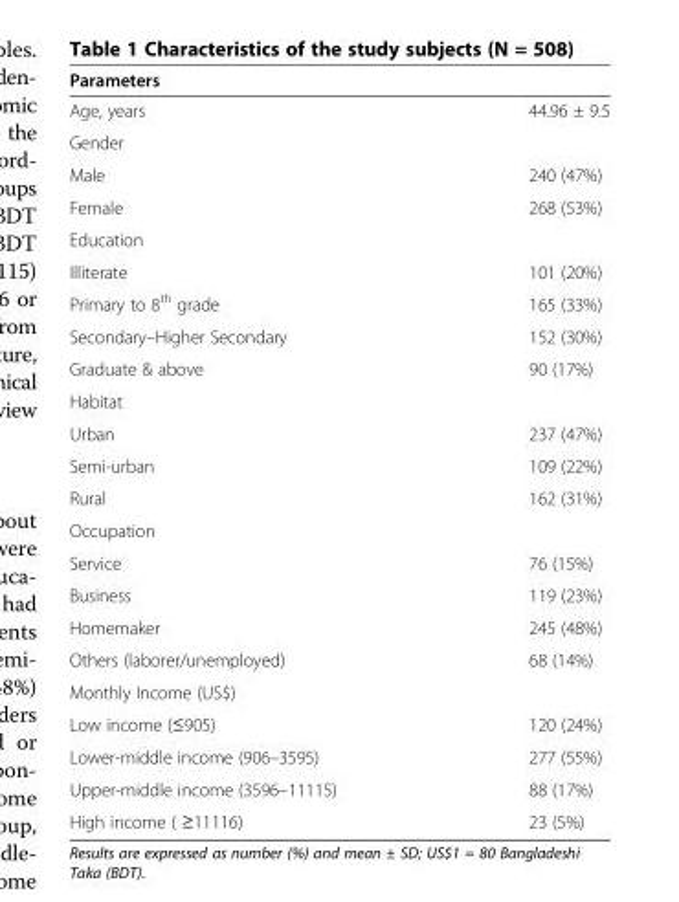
<table><thead><tr><td>Parameters</td><td></td></tr></thead><tbody><tr><td>Age, years</td><td>44.96 ± 9.5</td></tr><tr><td colspan="2">Gender</td></tr><tr><td>Male</td><td>240 (47%)</td></tr><tr><td>Female</td><td>268 (53%)</td></tr><tr><td colspan="2">Education</td></tr><tr><td>Illiterate</td><td>101 (20%)</td></tr><tr><td>Primary to 8<sup>th</sup> grade</td><td>165 (33%)</td></tr><tr><td>Secondary–Higher Secondary</td><td>152 (30%)</td></tr><tr><td>Graduate &amp; above</td><td>90 (17%)</td></tr><tr><td colspan="2">Habitat</td></tr><tr><td>Urban</td><td>237 (47%)</td></tr><tr><td>Semi-urban</td><td>109 (22%)</td></tr><tr><td>Rural</td><td>162 (31%)</td></tr><tr><td colspan="2">Occupation</td></tr><tr><td>Service</td><td>76 (15%)</td></tr><tr><td>Business</td><td>119 (23%)</td></tr><tr><td>Homemaker</td><td>245 (48%)</td></tr><tr><td>Others (laborer/unemployed)</td><td>68 (14%)</td></tr><tr><td colspan="2">Monthly Income (US$)</td></tr><tr><td>Low income (≤905)</td><td>120 (24%)</td></tr><tr><td>Lower-middle income (906–3595)</td><td>277 (55%)</td></tr><tr><td>Upper-middle income (3596–11115)</td><td>88 (17%)</td></tr><tr><td>High income ( ≥11116)</td><td>23 (5%)</td></tr></tbody></table>